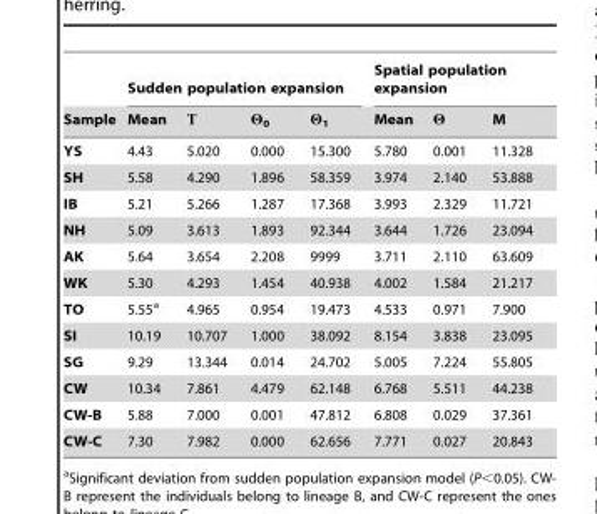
<table><thead><tr><td rowspan="2">Sample</td><td colspan="4">Sudden population expansion</td><td colspan="3">Spatial population expansion</td></tr><tr><td>Mean</td><td>T</td><td>Θ<sub>0</sub></td><td>Θ<sub>1</sub></td><td>Mean</td><td>Θ</td><td>M</td></tr></thead><tbody><tr><td>YS</td><td>4.43</td><td>5.020</td><td>0.000</td><td>15.300</td><td>5.780</td><td>0.001</td><td>11.328</td></tr><tr><td>SH</td><td>5.58</td><td>4.290</td><td>1.896</td><td>58.359</td><td>3.974</td><td>2.140</td><td>53.888</td></tr><tr><td>IB</td><td>5.21</td><td>5.266</td><td>1.287</td><td>17.368</td><td>3.993</td><td>2.329</td><td>11.721</td></tr><tr><td>NH</td><td>5.09</td><td>3.613</td><td>1.893</td><td>92.344</td><td>3.644</td><td>1.726</td><td>23.094</td></tr><tr><td>AK</td><td>5.64</td><td>3.654</td><td>2.208</td><td>9999</td><td>3.711</td><td>2.110</td><td>63.609</td></tr><tr><td>WK</td><td>5.30</td><td>4.293</td><td>1.454</td><td>40.938</td><td>4.002</td><td>1.584</td><td>21.217</td></tr><tr><td>TO</td><td>5.55<sup>a</sup></td><td>4.965</td><td>0.954</td><td>19.473</td><td>4.533</td><td>0.971</td><td>7.900</td></tr><tr><td>SI</td><td>10.19</td><td>10.707</td><td>1.000</td><td>38.092</td><td>8.154</td><td>3.838</td><td>23.095</td></tr><tr><td>SG</td><td>9.29</td><td>13.344</td><td>0.014</td><td>24.702</td><td>5.005</td><td>7.224</td><td>55.805</td></tr><tr><td>CW</td><td>10.34</td><td>7.861</td><td>4.479</td><td>62.148</td><td>6.768</td><td>5.511</td><td>44.238</td></tr><tr><td>CW-B</td><td>5.88</td><td>7.000</td><td>0.001</td><td>47.812</td><td>6.808</td><td>0.029</td><td>37.361</td></tr><tr><td>CW-C</td><td>7.30</td><td>7.982</td><td>0.000</td><td>62.656</td><td>7.771</td><td>0.027</td><td>20.843</td></tr></tbody></table>